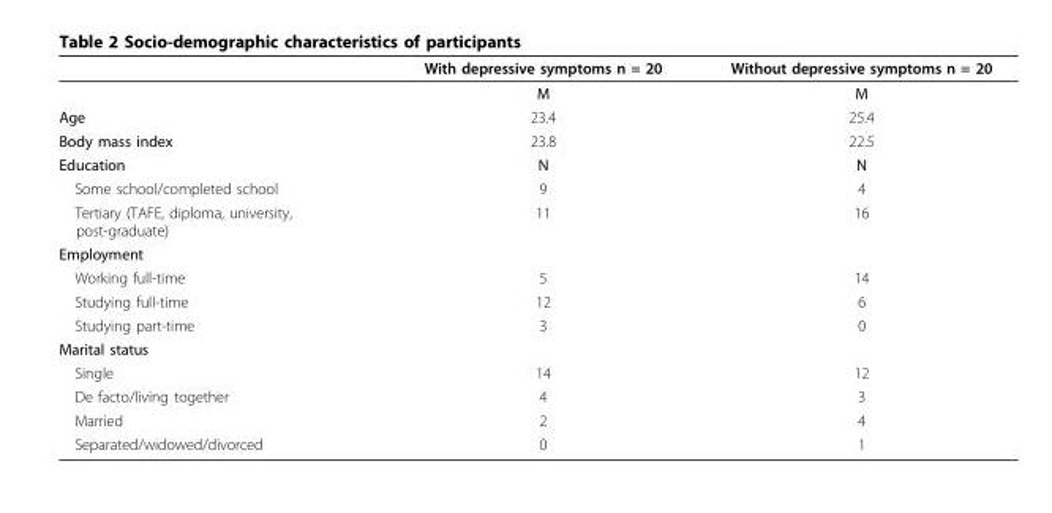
<table><thead><tr><td></td><td>With depressive symptoms n = 20</td><td>Without depressive symptoms n = 20</td></tr></thead><tbody><tr><td></td><td>M</td><td>M</td></tr><tr><td>Age</td><td>23.4</td><td>25.4</td></tr><tr><td>Body mass index</td><td>23.8</td><td>22.5</td></tr><tr><td>Education</td><td>N</td><td>N</td></tr><tr><td>Some school/completed school</td><td>9</td><td>4</td></tr><tr><td>Tertiary (TAFE, diploma, university, post-graduate)</td><td>11</td><td>16</td></tr><tr><td colspan="3">Employment</td></tr><tr><td>Working full-time</td><td>5</td><td>14</td></tr><tr><td>Studying full-time</td><td>12</td><td>6</td></tr><tr><td>Studying part-time</td><td>3</td><td>0</td></tr><tr><td colspan="3">Marital status</td></tr><tr><td>Single</td><td>14</td><td>12</td></tr><tr><td>De facto/living together</td><td>4</td><td>3</td></tr><tr><td>Married</td><td>2</td><td>4</td></tr><tr><td>Separated/widowed/divorced</td><td>0</td><td>1</td></tr></tbody></table>